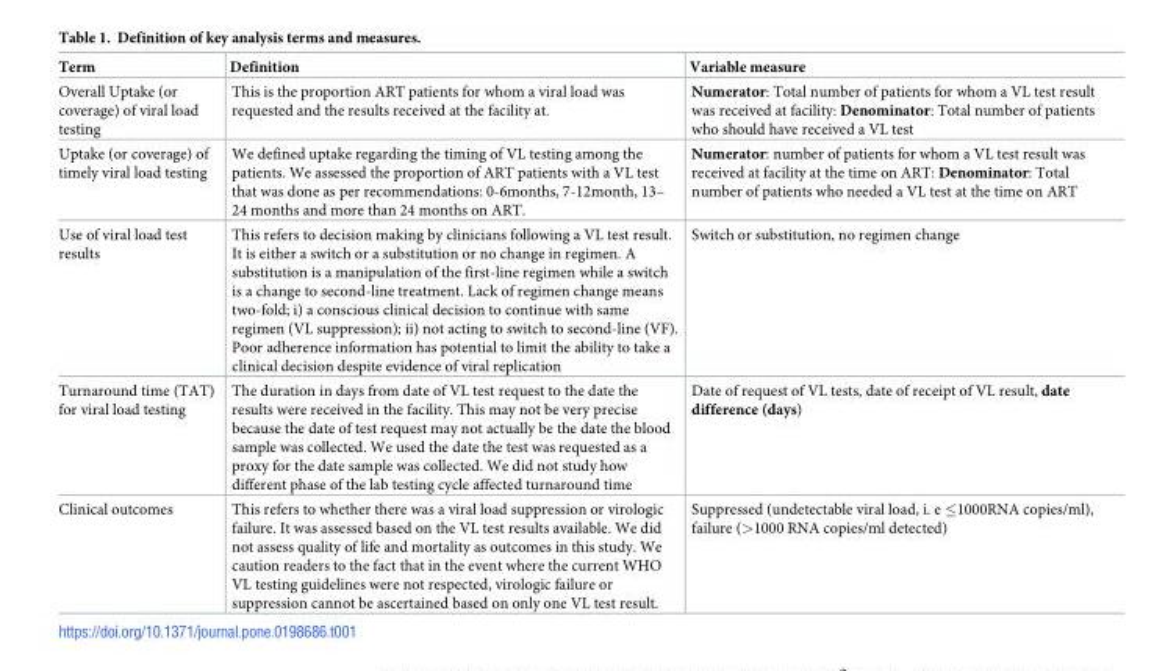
<table><thead><tr><td>Term</td><td>Definition</td><td>Variable measure</td></tr></thead><tbody><tr><td>Overall Uptake (or coverage) of viral load testing</td><td>This is the proportion ART patients for whom a viral load was requested and the results received at the facility at.</td><td>Numerator: Total number of patients for whom a VL test result was received at facility: Denominator: Total number of patients who should have received a VL test</td></tr><tr><td>Uptake (or coverage) of timely viral load testing</td><td>We defined uptake regarding the timing of VL testing among the patients. We assessed the proportion of ART patients with a VL test that was done as per recommendations: 0-6months, 7-12month, 13– 24 months and more than 24 months on ART.</td><td>Numerator: number of patients for whom a VL test result was received at facility at the time on ART: Denominator: Total number of patients who needed a VL test at the time on ART</td></tr><tr><td>Use of viral load test results</td><td>This refers to decision making by clinicians following a VL test result. It is either a switch or a substitution or no change in regimen. A substitution is a manipulation of the first-line regimen while a switch is a change to second-line treatment. Lack of regimen change means two-fold; i) a conscious clinical decision to continue with same regimen (VL suppression); ii) not acting to switch to second-line (VF). Poor adherence information has potential to limit the ability to take a clinical decision despite evidence of viral replication</td><td>Switch or substitution, no regimen change</td></tr><tr><td>Turnaround time (TAT) for viral load testing</td><td>The duration in days from date of VL test request to the date the results were received in the facility. This may not be very precise because the date of test request may not actually be the date the blood sample was collected. We used the date the test was requested as a proxy for the date sample was collected. We did not study how different phase of the lab testing cycle affected turnaround time</td><td>Date of request of VL tests, date of receipt of VL result, date difference (days)</td></tr><tr><td>Clinical outcomes</td><td>This refers to whether there was a viral load suppression or virologic failure. It was assessed based on the VL test results available. We did not assess quality of life and mortality as outcomes in this study. We caution readers to the fact that in the event where the current WHO VL testing guidelines were not respected, virologic failure or suppression cannot be ascertained based on only one VL test result.</td><td>Suppressed (undetectable viral load, i. e ≤1000RNA copies/ml), failure (&gt;1000 RNA copies/ml detected)</td></tr></tbody></table>